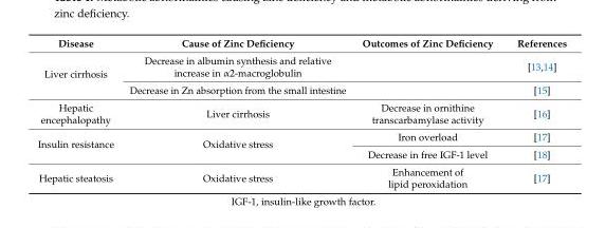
<table><thead><tr><td>Disease</td><td>Cause of Zinc Deficiency</td><td>Outcomes of Zinc Deficiency</td><td>References</td></tr></thead><tbody><tr><td rowspan="2">Liver cirrhosis</td><td>Decrease in albumin synthesis and relative increase in α2-macroglobulin</td><td></td><td>[13,14]</td></tr><tr><td>Decrease in Zn absorption from the small intestine</td><td></td><td>[15]</td></tr><tr><td>Hepatic encephalopathy</td><td>Liver cirrhosis</td><td>Decrease in ornithine transcarbamylase activity</td><td>[16]</td></tr><tr><td rowspan="2">Insulin resistance</td><td rowspan="2">Oxidative stress</td><td>Iron overload</td><td>[17]</td></tr><tr><td>Decrease in free IGF-1 level</td><td>[18]</td></tr><tr><td>Hepatic steatosis</td><td>Oxidative stress</td><td>Enhancement of lipid peroxidation</td><td>[17]</td></tr></tbody></table>